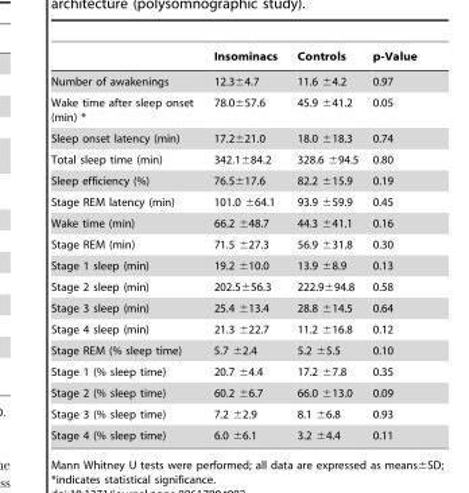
<table><thead><tr><td></td><td>Insominacs</td><td>Controls</td><td>p-Value</td></tr></thead><tbody><tr><td>Number of awakenings</td><td>12.3±4.7</td><td>11.6 ±4.2</td><td>0.97</td></tr><tr><td>Wake time after sleep onset (min) *</td><td>78.0±57.6</td><td>45.9 ±41.2</td><td>0.05</td></tr><tr><td>Sleep onset latency (min)</td><td>17.2±21.0</td><td>18.0 ±18.3</td><td>0.74</td></tr><tr><td>Total sleep time (min)</td><td>342.1±84.2</td><td>328.6 ±94.5</td><td>0.80</td></tr><tr><td>Sleep efficiency (%)</td><td>76.5±17.6</td><td>82.2 ±15.9</td><td>0.19</td></tr><tr><td>Stage REM latency (min)</td><td>101.0 ±64.1</td><td>93.9 ±59.9</td><td>0.45</td></tr><tr><td>Wake time (min)</td><td>66.2 ±48.7</td><td>44.3 ±41.1</td><td>0.16</td></tr><tr><td>Stage REM (min)</td><td>71.5 ±27.3</td><td>56.9 ±31.8</td><td>0.30</td></tr><tr><td>Stage 1 sleep (min)</td><td>19.2 ±10.0</td><td>13.9 ±8.9</td><td>0.13</td></tr><tr><td>Stage 2 sleep (min)</td><td>202.5±56.3</td><td>222.9±94.8</td><td>0.58</td></tr><tr><td>Stage 3 sleep (min)</td><td>25.4 ±13.4</td><td>28.8 ±14.5</td><td>0.64</td></tr><tr><td>Stage 4 sleep (min)</td><td>21.3 ±22.7</td><td>11.2 ±16.8</td><td>0.12</td></tr><tr><td>Stage REM (% sleep time)</td><td>5.7 ±2.4</td><td>5.2 ±5.5</td><td>0.10</td></tr><tr><td>Stage 1 (% sleep time)</td><td>20.7 ±4.4</td><td>17.2 ±7.8</td><td>0.35</td></tr><tr><td>Stage 2 (% sleep time)</td><td>60.2 ±6.7</td><td>66.0 ±13.0</td><td>0.09</td></tr><tr><td>Stage 3 (% sleep time)</td><td>7.2 ±2.9</td><td>8.1 ±6.8</td><td>0.93</td></tr><tr><td>Stage 4 (% sleep time)</td><td>6.0 ±6.1</td><td>3.2 ±4.4</td><td>0.11</td></tr></tbody></table>